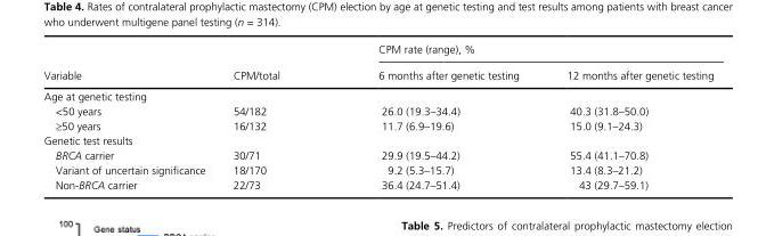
<table><thead><tr><td rowspan="2">Variable</td><td rowspan="2">CPM/total</td><td colspan="2">CPM rate (range), %</td></tr><tr><td>6 months after genetic testing</td><td>12 months after genetic testing</td></tr></thead><tbody><tr><td colspan="4">Age at genetic testing</td></tr><tr><td>&lt;50 years</td><td>54/182</td><td>26.0 (19.3–34.4)</td><td>40.3 (31.8–50.0)</td></tr><tr><td>≥50 years</td><td>16/132</td><td>11.7 (6.9–19.6)</td><td>15.0 (9.1–24.3)</td></tr><tr><td colspan="4">Genetic test results</td></tr><tr><td>BRCA carrier</td><td>30/71</td><td>29.9 (19.5–44.2)</td><td>55.4 (41.1–70.8)</td></tr><tr><td>Variant of uncertain significance</td><td>18/170</td><td>9.2 (5.3–15.7)</td><td>13.4 (8.3–21.2)</td></tr><tr><td>Non- BRCA carrier</td><td>22/73</td><td>36.4 (24.7–51.4)</td><td>43 (29.7–59.1)</td></tr></tbody></table>